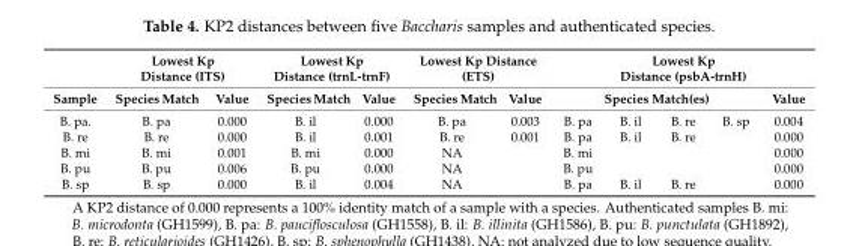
<table><thead><tr><td rowspan="3">Sample B. pa.</td><td colspan="2">Lowest Kp Distance (ITS)</td><td colspan="2">Lowest Kp Distance (trnL-trnF)</td><td colspan="2">Lowest Kp Distance (ETS)</td><td colspan="5">Lowest Kp Distance (psbA-trnH)</td></tr><tr><td rowspan="2">Species Match B. pa</td><td rowspan="2">Value 0.000</td><td rowspan="2">Species Match B. il</td><td rowspan="2">Value 0.000</td><td rowspan="2">Species Match B. pa</td><td rowspan="2">Value 0.003</td><td colspan="4">Species Match(es)</td><td rowspan="2">Value 0.004</td></tr><tr><td>B. pa</td><td>B. il</td><td>B. re</td><td>B. sp</td></tr></thead><tbody><tr><td>B. re</td><td>B. re</td><td>0.000</td><td>B. il</td><td>0.001</td><td>B. re</td><td>0.001</td><td>B. pa</td><td>B. il</td><td>B. re</td><td></td><td>0.000</td></tr><tr><td>B. mi</td><td>B. mi</td><td>0.001</td><td>B. mi</td><td>0.000</td><td>NA</td><td></td><td>B. mi</td><td></td><td></td><td></td><td>0.000</td></tr><tr><td>B. pu</td><td>B. pu</td><td>0.006</td><td>B. pu</td><td>0.000</td><td>NA</td><td></td><td>B. pu</td><td></td><td></td><td></td><td>0.000</td></tr><tr><td>B. sp</td><td>B. sp</td><td>0.000</td><td>B. il</td><td>0.004</td><td>NA</td><td></td><td>B. pa</td><td>B. il</td><td>B. re</td><td></td><td>0.000</td></tr></tbody></table>